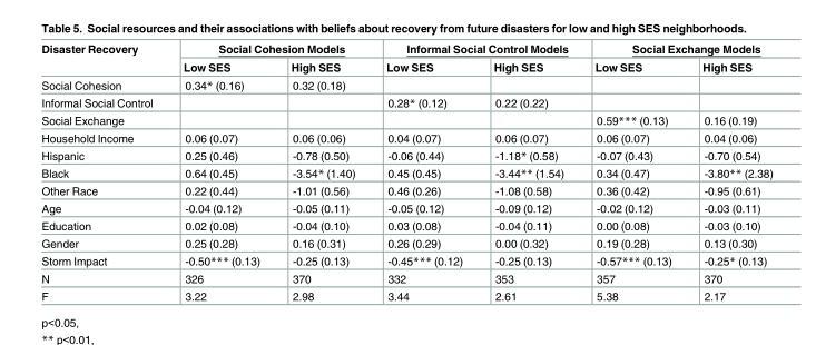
<table><thead><tr><td rowspan="2">Disaster Recovery</td><td colspan="2">Social Cohesion Models</td><td colspan="2">Informal Social Control Models</td><td colspan="2">Social Exchange Models</td></tr><tr><td>Low SES</td><td>High SES</td><td>Low SES</td><td>High SES</td><td>Low SES</td><td>High SES</td></tr></thead><tbody><tr><td>Social Cohesion</td><td>0.34* (0.16)</td><td>0.32 (0.18)</td><td></td><td></td><td></td><td></td></tr><tr><td>Informal Social Control</td><td></td><td></td><td>0.28* (0.12)</td><td>0.22 (0.22)</td><td></td><td></td></tr><tr><td>Social Exchange</td><td></td><td></td><td></td><td></td><td>0.59*** (0.13)</td><td>0.16 (0.19)</td></tr><tr><td>Household Income</td><td>0.06 (0.07)</td><td>0.06 (0.06)</td><td>0.04 (0.07)</td><td>0.06 (0.07)</td><td>0.06 (0.07)</td><td>0.04 (0.06)</td></tr><tr><td>Hispanic</td><td>0.25 (0.46)</td><td>-0.78 (0.50)</td><td>-0.06 (0.44)</td><td>-1.18* (0.58)</td><td>-0.07 (0.43)</td><td>-0.70 (0.54)</td></tr><tr><td>Black</td><td>0.64 (0.45)</td><td>-3.54* (1.40)</td><td>0.45 (0.45)</td><td>-3.44** (1.54)</td><td>0.34 (0.47)</td><td>-3.80** (2.38)</td></tr><tr><td>Other Race</td><td>0.22 (0.44)</td><td>-1.01 (0.56)</td><td>0.46 (0.26)</td><td>-1.08 (0.58)</td><td>0.36 (0.42)</td><td>-0.95 (0.61)</td></tr><tr><td>Age</td><td>-0.04 (0.12)</td><td>-0.05 (0.11)</td><td>-0.05 (0.12)</td><td>-0.09 (0.12)</td><td>-0.02 (0.12)</td><td>-0.03 (0.11)</td></tr><tr><td>Education</td><td>0.02 (0.08)</td><td>-0.04 (0.10)</td><td>0.03 (0.08)</td><td>-0.04 (0.11)</td><td>0.00 (0.08)</td><td>-0.03 (0.10)</td></tr><tr><td>Gender</td><td>0.25 (0.28)</td><td>0.16 (0.31)</td><td>0.26 (0.29)</td><td>0.00 (0.32)</td><td>0.19 (0.28)</td><td>0.13 (0.30)</td></tr><tr><td>Storm Impact</td><td>-0.50*** (0.13)</td><td>-0.25 (0.13)</td><td>-0.45*** (0.12)</td><td>-0.25 (0.13)</td><td>-0.57*** (0.13)</td><td>-0.25* (0.13)</td></tr><tr><td>N</td><td>326</td><td>370</td><td>332</td><td>353</td><td>357</td><td>370</td></tr><tr><td>F</td><td>3.22</td><td>2.98</td><td>3.44</td><td>2.61</td><td>5.38</td><td>2.17</td></tr></tbody></table>